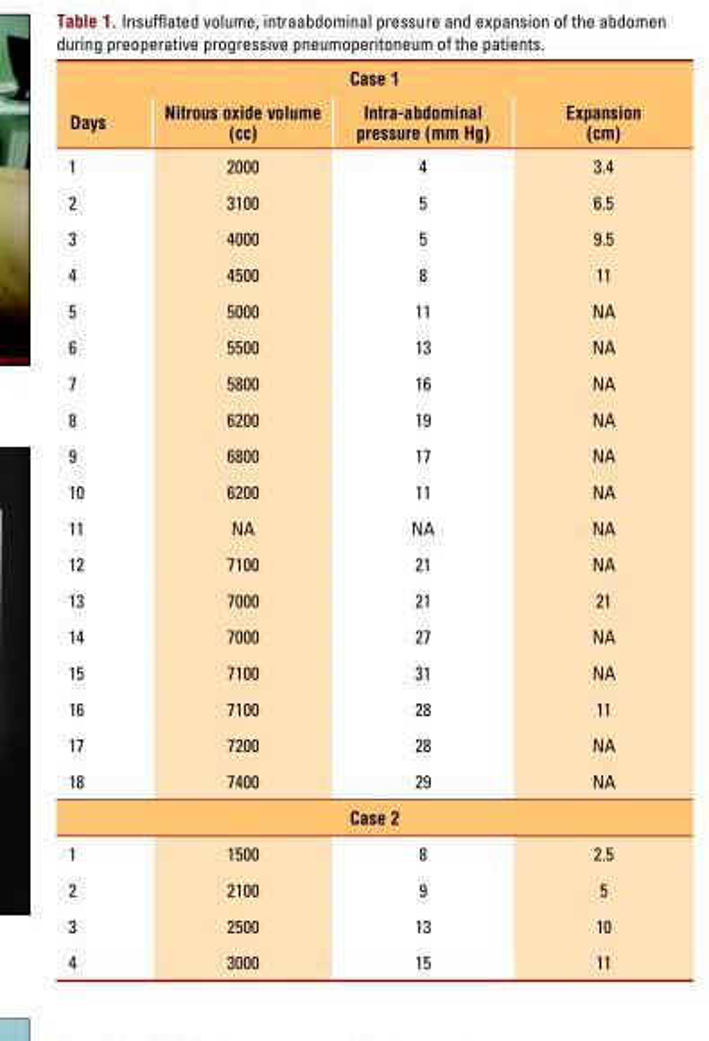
<table><thead><tr><td colspan="4">Case 1</td></tr><tr><td>Days</td><td>Nitrous oxide volume (cc)</td><td>Intra-abdominal pressure (mm Hg)</td><td>Expansion (cm)</td></tr></thead><tbody><tr><td>1</td><td>2000</td><td>4</td><td>3.4</td></tr><tr><td>2</td><td>3100</td><td>5</td><td>6.5</td></tr><tr><td>3</td><td>4000</td><td>5</td><td>9.5</td></tr><tr><td>4</td><td>4500</td><td>8</td><td>11</td></tr><tr><td>5</td><td>5000</td><td>11</td><td>NA</td></tr><tr><td>6</td><td>5500</td><td>13</td><td>NA</td></tr><tr><td>7</td><td>5800</td><td>16</td><td>NA</td></tr><tr><td>8</td><td>6200</td><td>19</td><td>NA</td></tr><tr><td>9</td><td>6800</td><td>17</td><td>NA</td></tr><tr><td>10</td><td>6200</td><td>11</td><td>NA</td></tr><tr><td>11</td><td>NA</td><td>NA</td><td>NA</td></tr><tr><td>12</td><td>7100</td><td>21</td><td>NA</td></tr><tr><td>13</td><td>7000</td><td>21</td><td>21</td></tr><tr><td>14</td><td>7000</td><td>27</td><td>NA</td></tr><tr><td>15</td><td>7100</td><td>31</td><td>NA</td></tr><tr><td>16</td><td>7100</td><td>28</td><td>11</td></tr><tr><td>17</td><td>7200</td><td>28</td><td>NA</td></tr><tr><td>18</td><td>7400</td><td>29</td><td>NA</td></tr><tr><td colspan="4">Case 2</td></tr><tr><td>1</td><td>1500</td><td>8</td><td>2.5</td></tr><tr><td>2</td><td>2100</td><td>9</td><td>5</td></tr><tr><td>3</td><td>2500</td><td>13</td><td>10</td></tr><tr><td>4</td><td>3000</td><td>15</td><td>11</td></tr></tbody></table>